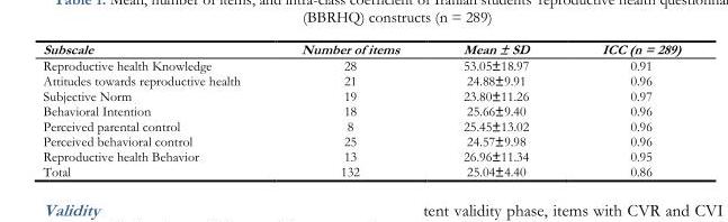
<table><thead><tr><td>Subscale</td><td>Number of items</td><td>Mean ± SD</td><td>ICC (n = 289)</td></tr></thead><tbody><tr><td>Reproductive health Knowledge</td><td>28</td><td>53.05±18.97</td><td>0.91</td></tr><tr><td>Attitudes towards reproductive health</td><td>21</td><td>24.88±9.91</td><td>0.96</td></tr><tr><td>Subjective Norm</td><td>19</td><td>23.80±11.26</td><td>0.97</td></tr><tr><td>Behavioral Intention</td><td>18</td><td>25.66±9.40</td><td>0.96</td></tr><tr><td>Perceived parental control</td><td>8</td><td>25.45±13.02</td><td>0.96</td></tr><tr><td>Perceived behavioral control</td><td>25</td><td>24.57±9.98</td><td>0.96</td></tr><tr><td>Reproductive health Behavior</td><td>13</td><td>26.96±11.34</td><td>0.95</td></tr><tr><td>Total</td><td>132</td><td>25.04±4.40</td><td>0.86</td></tr></tbody></table>